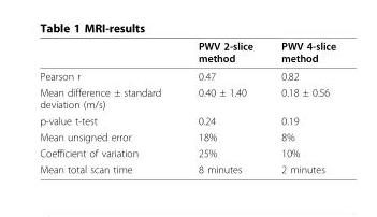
<table><thead><tr><td></td><td>PWV 2-slice method</td><td>PWV 4-slice method</td></tr></thead><tbody><tr><td>Pearson r</td><td>0.47</td><td>0.82</td></tr><tr><td>Mean difference ± standard deviation (m/s)</td><td>0.40 ± 1.40</td><td>0.18 ± 0.56</td></tr><tr><td>p-value t-test</td><td>0.24</td><td>0.19</td></tr><tr><td>Mean unsigned error</td><td>18%</td><td>8%</td></tr><tr><td>Coefficient of variation</td><td>25%</td><td>10%</td></tr><tr><td>Mean total scan time</td><td>8 minutes</td><td>2 minutes</td></tr></tbody></table>